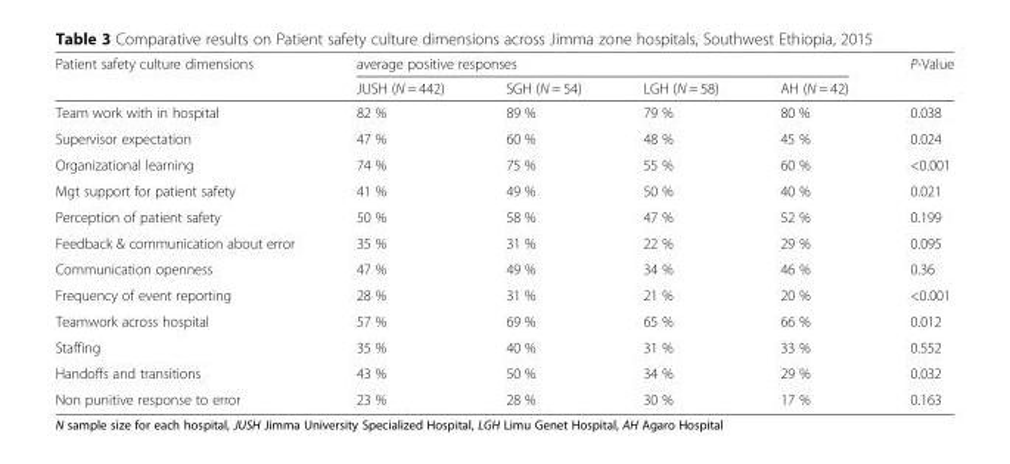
<table><thead><tr><td rowspan="2">Patient safety culture dimensions</td><td colspan="4">average positive responses</td><td rowspan="2">P-Value</td></tr><tr><td>JUSH (N = 442)</td><td>SGH (N = 54)</td><td>LGH (N = 58)</td><td>AH (N = 42)</td></tr></thead><tbody><tr><td>Team work with in hospital</td><td>82 %</td><td>89 %</td><td>79 %</td><td>80 %</td><td>0.038</td></tr><tr><td>Supervisor expectation</td><td>47 %</td><td>60 %</td><td>48 %</td><td>45 %</td><td>0.024</td></tr><tr><td>Organizational learning</td><td>74 %</td><td>75 %</td><td>55 %</td><td>60 %</td><td>&lt;0.001</td></tr><tr><td>Mgt support for patient safety</td><td>41 %</td><td>49 %</td><td>50 %</td><td>40 %</td><td>0.021</td></tr><tr><td>Perception of patient safety</td><td>50 %</td><td>58 %</td><td>47 %</td><td>52 %</td><td>0.199</td></tr><tr><td>Feedback &amp; communication about error</td><td>35 %</td><td>31 %</td><td>22 %</td><td>29 %</td><td>0.095</td></tr><tr><td>Communication openness</td><td>47 %</td><td>49 %</td><td>34 %</td><td>46 %</td><td>0.36</td></tr><tr><td>Frequency of event reporting</td><td>28 %</td><td>31 %</td><td>21 %</td><td>20 %</td><td>&lt;0.001</td></tr><tr><td>Teamwork across hospital</td><td>57 %</td><td>69 %</td><td>65 %</td><td>66 %</td><td>0.012</td></tr><tr><td>Staffing</td><td>35 %</td><td>40 %</td><td>31 %</td><td>33 %</td><td>0.552</td></tr><tr><td>Handoffs and transitions</td><td>43 %</td><td>50 %</td><td>34 %</td><td>29 %</td><td>0.032</td></tr><tr><td>Non punitive response to error</td><td>23 %</td><td>28 %</td><td>30 %</td><td>17 %</td><td>0.163</td></tr></tbody></table>